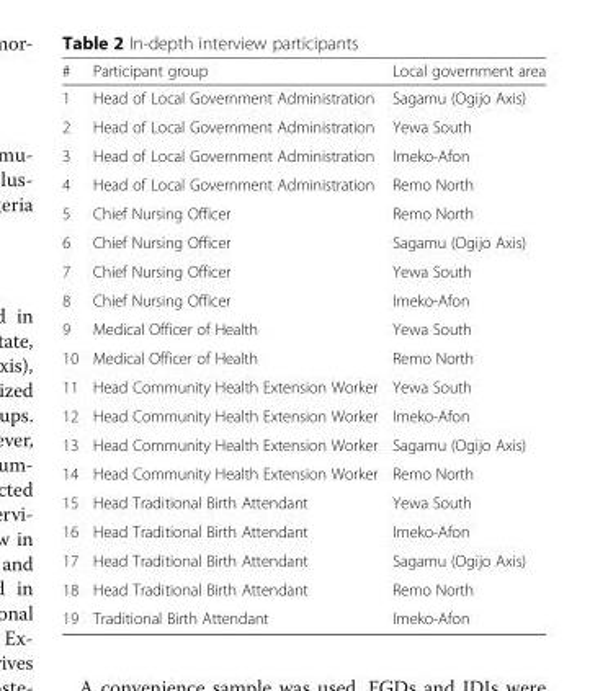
<table><thead><tr><td>#</td><td>Participant group</td><td>Local government area</td></tr></thead><tbody><tr><td>1</td><td>Head of Local Government Administration</td><td>Sagamu (Ogijo Axis)</td></tr><tr><td>2</td><td>Head of Local Government Administration</td><td>Yewa South</td></tr><tr><td>3</td><td>Head of Local Government Administration</td><td>Imeko-Afon</td></tr><tr><td>4</td><td>Head of Local Government Administration</td><td>Remo North</td></tr><tr><td>5</td><td>Chief Nursing Officer</td><td>Remo North</td></tr><tr><td>6</td><td>Chief Nursing Officer</td><td>Sagamu (Ogijo Axis)</td></tr><tr><td>7</td><td>Chief Nursing Officer</td><td>Yewa South</td></tr><tr><td>8</td><td>Chief Nursing Officer</td><td>Imeko-Afon</td></tr><tr><td>9</td><td>Medical Officer of Health</td><td>Yewa South</td></tr><tr><td>10</td><td>Medical Officer of Health</td><td>Remo North</td></tr><tr><td>11</td><td>Head Community Health Extension Worker</td><td>Yewa South</td></tr><tr><td>12</td><td>Head Community Health Extension Worker</td><td>Imeko-Afon</td></tr><tr><td>13</td><td>Head Community Health Extension Worker</td><td>Sagamu (Ogijo Axis)</td></tr><tr><td>14</td><td>Head Community Health Extension Worker</td><td>Remo North</td></tr><tr><td>15</td><td>Head Traditional Birth Attendant</td><td>Yewa South</td></tr><tr><td>16</td><td>Head Traditional Birth Attendant</td><td>Imeko-Afon</td></tr><tr><td>17</td><td>Head Traditional Birth Attendant</td><td>Sagamu (Ogijo Axis)</td></tr><tr><td>18</td><td>Head Traditional Birth Attendant</td><td>Remo North</td></tr><tr><td>19</td><td>Traditional Birth Attendant</td><td>Imeko-Afon</td></tr></tbody></table>